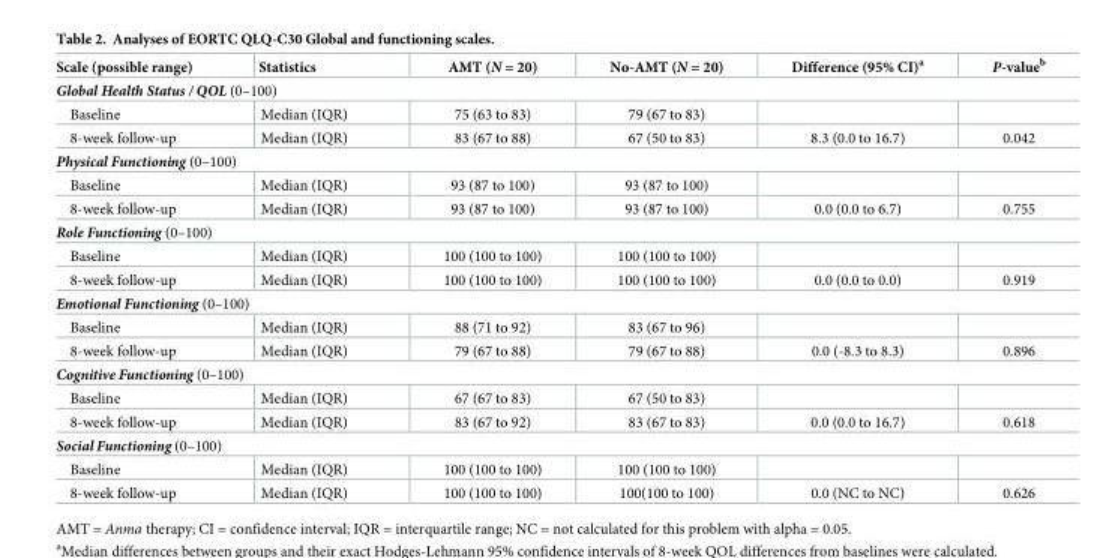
<table><thead><tr><td>Scale (possible range)</td><td>Statistics</td><td>AMT (N = 20)</td><td>No-AMT (N = 20)</td><td>Difference (95% CI)<sup>a</sup></td><td>P-value<sup>b</sup></td></tr></thead><tbody><tr><td colspan="6">Global Health Status / QOL (0–100)</td></tr><tr><td>Baseline</td><td>Median (IQR)</td><td>75 (63 to 83)</td><td>79 (67 to 83)</td><td></td><td></td></tr><tr><td>8-week follow-up</td><td>Median (IQR)</td><td>83 (67 to 88)</td><td>67 (50 to 83)</td><td>8.3 (0.0 to 16.7)</td><td>0.042</td></tr><tr><td colspan="6">Physical Functioning (0–100)</td></tr><tr><td>Baseline</td><td>Median (IQR)</td><td>93 (87 to 100)</td><td>93 (87 to 100)</td><td></td><td></td></tr><tr><td>8-week follow-up</td><td>Median (IQR)</td><td>93 (87 to 100)</td><td>93 (87 to 100)</td><td>0.0 (0.0 to 6.7)</td><td>0.755</td></tr><tr><td colspan="6">Role Functioning (0–100)</td></tr><tr><td>Baseline</td><td>Median (IQR)</td><td>100 (100 to 100)</td><td>100 (100 to 100)</td><td></td><td></td></tr><tr><td>8-week follow-up</td><td>Median (IQR)</td><td>100 (100 to 100)</td><td>100 (100 to 100)</td><td>0.0 (0.0 to 0.0)</td><td>0.919</td></tr><tr><td colspan="6">Emotional Functioning (0–100)</td></tr><tr><td>Baseline</td><td>Median (IQR)</td><td>88 (71 to 92)</td><td>83 (67 to 96)</td><td></td><td></td></tr><tr><td>8-week follow-up</td><td>Median (IQR)</td><td>79 (67 to 88)</td><td>79 (67 to 88)</td><td>0.0 (-8.3 to 8.3)</td><td>0.896</td></tr><tr><td colspan="6">Cognitive Functioning (0–100)</td></tr><tr><td>Baseline</td><td>Median (IQR)</td><td>67 (67 to 83)</td><td>67 (50 to 83)</td><td></td><td></td></tr><tr><td>8-week follow-up</td><td>Median (IQR)</td><td>83 (67 to 92)</td><td>83 (67 to 83)</td><td>0.0 (0.0 to 16.7)</td><td>0.618</td></tr><tr><td colspan="6">Social Functioning (0–100)</td></tr><tr><td>Baseline</td><td>Median (IQR)</td><td>100 (100 to 100)</td><td>100 (100 to 100)</td><td></td><td></td></tr><tr><td>8-week follow-up</td><td>Median (IQR)</td><td>100 (100 to 100)</td><td>100(100 to 100)</td><td>0.0 (NC to NC)</td><td>0.626</td></tr></tbody></table>